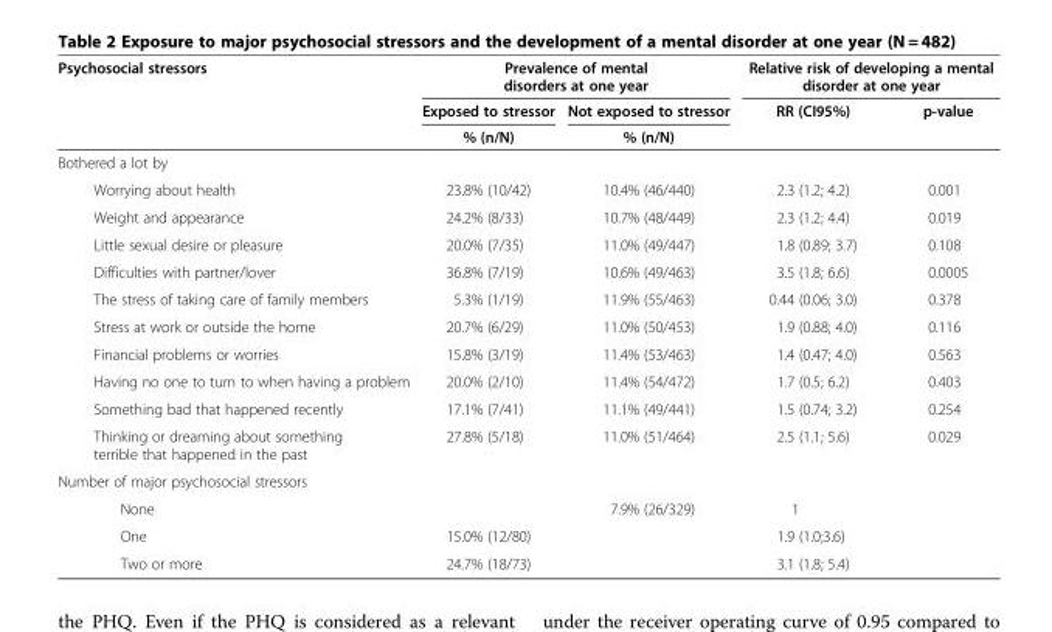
<table><thead><tr><td rowspan="3">Psychosocial stressors</td><td colspan="2">Prevalence of mental disorders at one year</td><td colspan="2">Relative risk of developing a mental disorder at one year</td></tr><tr><td rowspan="2">Exposed to stressor % (n/N)</td><td rowspan="2">Not exposed to stressor % (n/N)</td><td rowspan="2">RR (CI95%)</td><td rowspan="2">p-value</td></tr><tr></tr></thead><tbody><tr><td colspan="5">Bothered a lot by</td></tr><tr><td>Worrying about health</td><td>23.8% (10/42)</td><td>10.4% (46/440)</td><td>2.3 (1.2; 4.2)</td><td>0.001</td></tr><tr><td>Weight and appearance</td><td>24.2% (8/33)</td><td>10.7% (48/449)</td><td>2.3 (1.2; 4.4)</td><td>0.019</td></tr><tr><td>Little sexual desire or pleasure</td><td>20.0% (7/35)</td><td>11.0% (49/447)</td><td>1.8 (0.89; 3.7)</td><td>0.108</td></tr><tr><td>Difficulties with partner/lover</td><td>36.8% (7/19)</td><td>10.6% (49/463)</td><td>3.5 (1.8; 6.6)</td><td>0.0005</td></tr><tr><td>The stress of taking care of family members</td><td>5.3% (1/19)</td><td>11.9% (55/463)</td><td>0.44 (0.06; 3.0)</td><td>0.378</td></tr><tr><td>Stress at work or outside the home</td><td>20.7% (6/29)</td><td>11.0% (50/453)</td><td>1.9 (0.88; 4.0)</td><td>0.116</td></tr><tr><td>Financial problems or worries</td><td>15.8% (3/19)</td><td>11.4% (53/463)</td><td>1.4 (0.47; 4.0)</td><td>0.563</td></tr><tr><td>Having no one to turn to when having a problem</td><td>20.0% (2/10)</td><td>11.4% (54/472)</td><td>1.7 (0.5; 6.2)</td><td>0.403</td></tr><tr><td>Something bad that happened recently</td><td>17.1% (7/41)</td><td>11.1% (49/441)</td><td>1.5 (0.74; 3.2)</td><td>0.254</td></tr><tr><td>Thinking or dreaming about something terrible that happened in the past</td><td>27.8% (5/18)</td><td>11.0% (51/464)</td><td>2.5 (1.1; 5.6)</td><td>0.029</td></tr><tr><td colspan="5">Number of major psychosocial stressors</td></tr><tr><td>None</td><td></td><td>7.9% (26/329)</td><td>1</td><td></td></tr><tr><td>One</td><td>15.0% (12/80)</td><td></td><td>1.9 (1.0;3.6)</td><td></td></tr><tr><td>Two or more</td><td>24.7% (18/73)</td><td></td><td>3.1 (1.8; 5.4)</td><td></td></tr></tbody></table>